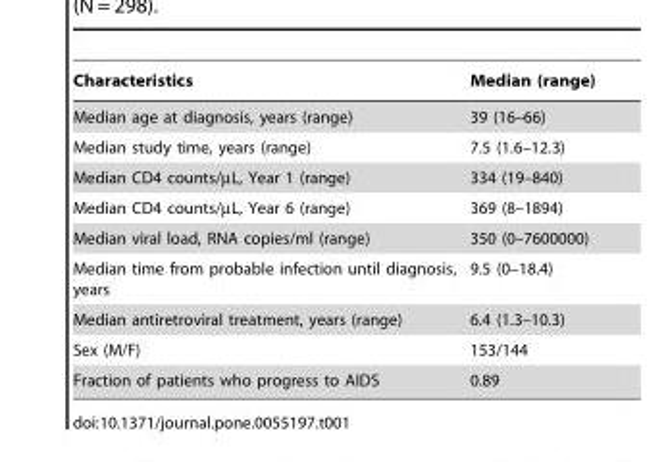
<table><thead><tr><td>Characteristics</td><td>Median (range)</td></tr></thead><tbody><tr><td>Median age at diagnosis, years (range)</td><td>39 (16–66)</td></tr><tr><td>Median study time, years (range)</td><td>7.5 (1.6–12.3)</td></tr><tr><td>Median CD4 counts/µL, Year 1 (range)</td><td>334 (19–840)</td></tr><tr><td>Median CD4 counts/µL, Year 6 (range)</td><td>369 (8–1894)</td></tr><tr><td>Median viral load, RNA copies/ml (range)</td><td>350 (0–7600000)</td></tr><tr><td>Median time from probable infection until diagnosis, years</td><td>9.5 (0–18.4)</td></tr><tr><td>Median antiretroviral treatment, years (range)</td><td>6.4 (1.3–10.3)</td></tr><tr><td>Sex (M/F)</td><td>153/144</td></tr><tr><td>Fraction of patients who progress to AIDS</td><td>0.89</td></tr></tbody></table>